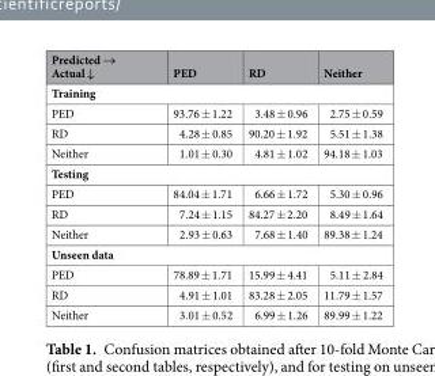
<table><thead><tr><td>Predicted → Actual ↓</td><td>PED</td><td>RD</td><td>Neither</td></tr></thead><tbody><tr><td colspan="4">Training</td></tr><tr><td>PED</td><td>93.76 ± 1.22</td><td>3.48 ± 0.96</td><td>2.75 ± 0.59</td></tr><tr><td>RD</td><td>4.28 ± 0.85</td><td>90.20 ± 1.92</td><td>5.51 ± 1.38</td></tr><tr><td>Neither</td><td>1.01 ± 0.30</td><td>4.81 ± 1.02</td><td>94.18 ± 1.03</td></tr><tr><td colspan="4">Testing</td></tr><tr><td>PED</td><td>84.04 ± 1.71</td><td>6.66 ± 1.72</td><td>5.30 ± 0.96</td></tr><tr><td>RD</td><td>7.24 ± 1.15</td><td>84.27 ± 2.20</td><td>8.49 ± 1.64</td></tr><tr><td>Neither</td><td>2.93 ± 0.63</td><td>7.68 ± 1.40</td><td>89.38 ± 1.24</td></tr><tr><td colspan="4">Unseen data</td></tr><tr><td>PED</td><td>78.89 ± 1.71</td><td>15.99 ± 4.41</td><td>5.11 ± 2.84</td></tr><tr><td>RD</td><td>4.91 ± 1.01</td><td>83.28 ± 2.05</td><td>11.79 ± 1.57</td></tr><tr><td>Neither</td><td>3.01 ± 0.52</td><td>6.99 ± 1.26</td><td>89.99 ± 1.22</td></tr></tbody></table>